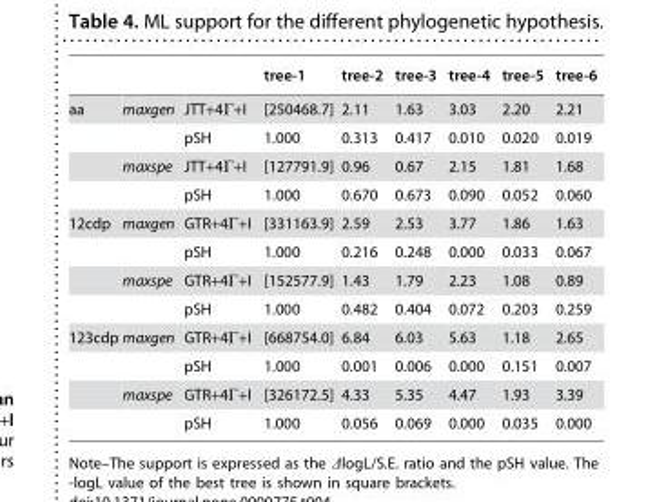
<table><thead><tr><td></td><td></td><td></td><td>tree-1</td><td>tree-2</td><td>tree-3</td><td>tree-4</td><td>tree-5</td><td>tree-6</td></tr></thead><tbody><tr><td rowspan="4">aa</td><td>maxgen</td><td>JTT+4Γ+I</td><td>[250468.7]</td><td>2.11</td><td>1.63</td><td>3.03</td><td>2.20</td><td>2.21</td></tr><tr><td></td><td>pSH</td><td>1.000</td><td>0.313</td><td>0.417</td><td>0.010</td><td>0.020</td><td>0.019</td></tr><tr><td>maxspe</td><td>JTT+4Γ+I</td><td>[127791.9]</td><td>0.96</td><td>0.67</td><td>2.15</td><td>1.81</td><td>1.68</td></tr><tr><td></td><td>pSH</td><td>1.000</td><td>0.670</td><td>0.673</td><td>0.090</td><td>0.052</td><td>0.060</td></tr><tr><td rowspan="4">12cdp</td><td>maxgen</td><td>GTR+4Γ+I</td><td>[331163.9]</td><td>2.59</td><td>2.53</td><td>3.77</td><td>1.86</td><td>1.63</td></tr><tr><td></td><td>pSH</td><td>1.000</td><td>0.216</td><td>0.248</td><td>0.000</td><td>0.033</td><td>0.067</td></tr><tr><td>maxspe</td><td>GTR+4Γ+I</td><td>[152577.9]</td><td>1.43</td><td>1.79</td><td>2.23</td><td>1.08</td><td>0.89</td></tr><tr><td></td><td>pSH</td><td>1.000</td><td>0.482</td><td>0.404</td><td>0.072</td><td>0.203</td><td>0.259</td></tr><tr><td rowspan="4">123cdp</td><td>maxgen</td><td>GTR+4Γ+I</td><td>[668754.0]</td><td>6.84</td><td>6.03</td><td>5.63</td><td>1.18</td><td>2.65</td></tr><tr><td></td><td>pSH</td><td>1.000</td><td>0.001</td><td>0.006</td><td>0.000</td><td>0.151</td><td>0.007</td></tr><tr><td>maxspe</td><td>GTR+4Γ+I</td><td>[326172.5]</td><td>4.33</td><td>5.35</td><td>4.47</td><td>1.93</td><td>3.39</td></tr><tr><td></td><td>pSH</td><td>1.000</td><td>0.056</td><td>0.069</td><td>0.000</td><td>0.035</td><td>0.000</td></tr></tbody></table>